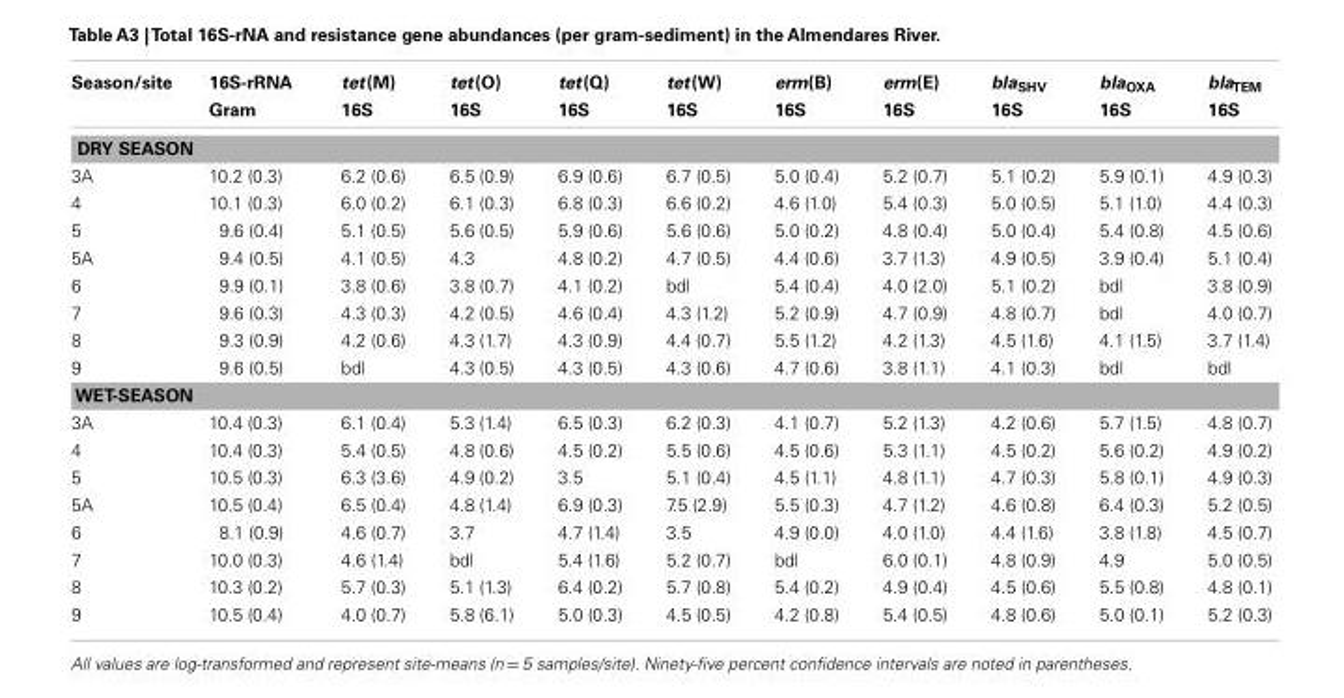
<table><thead><tr><td>Season/site</td><td>16S-rRNA Gram</td><td>tet(M) 16S</td><td>tet(O) 16S</td><td>tet(Q) 16S</td><td>tet(W) 16S</td><td>erm(B) 16S</td><td>erm(E) 16S</td><td>bla<sub>SHV</sub> 16S</td><td>bla<sub>OXA</sub> 16S</td><td>bla<sub>TEM</sub> 16S</td></tr></thead><tbody><tr><td colspan="11">DRY SEASON</td></tr><tr><td>3A</td><td>10.2 (0.3)</td><td>6.2 (0.6)</td><td>6.5 (0.9)</td><td>6.9 (0.6)</td><td>6.7 (0.5)</td><td>5.0 (0.4)</td><td>5.2 (0.7)</td><td>5.1 (0.2)</td><td>5.9 (0.1)</td><td>4.9 (0.3)</td></tr><tr><td>4</td><td>10.1 (0.3)</td><td>6.0 (0.2)</td><td>6.1 (0.3)</td><td>6.8 (0.3)</td><td>6.6 (0.2)</td><td>4.6 (1.0)</td><td>5.4 (0.3)</td><td>5.0 (0.5)</td><td>5.1 (1.0)</td><td>4.4 (0.3)</td></tr><tr><td>5</td><td>9.6 (0.4)</td><td>5.1 (0.5)</td><td>5.6 (0.5)</td><td>5.9 (0.6)</td><td>5.6 (0.6)</td><td>5.0 (0.2)</td><td>4.8 (0.4)</td><td>5.0 (0.4)</td><td>5.4 (0.8)</td><td>4.5 (0.6)</td></tr><tr><td>5A</td><td>9.4 (0.5)</td><td>4.1 (0.5)</td><td>4.3</td><td>4.8 (0.2)</td><td>4.7 (0.5)</td><td>4.4 (0.6)</td><td>3.7 (1.3)</td><td>4.9 (0.5)</td><td>3.9 (0.4)</td><td>5.1 (0.4)</td></tr><tr><td>6</td><td>9.9 (0.1)</td><td>3.8 (0.6)</td><td>3.8 (0.7)</td><td>4.1 (0.2)</td><td>bdl</td><td>5.4 (0.4)</td><td>4.0 (2.0)</td><td>5.1 (0.2)</td><td>bdl</td><td>3.8 (0.9)</td></tr><tr><td>7</td><td>9.6 (0.3)</td><td>4.3 (0.3)</td><td>4.2 (0.5)</td><td>4.6 (0.4)</td><td>4.3 (1.2)</td><td>5.2 (0.9)</td><td>4.7 (0.9)</td><td>4.8 (0.7)</td><td>bdl</td><td>4.0 (0.7)</td></tr><tr><td>8</td><td>9.3 (0.9)</td><td>4.2 (0.6)</td><td>4.3 (1.7)</td><td>4.3 (0.9)</td><td>4.4 (0.7)</td><td>5.5 (1.2)</td><td>4.2 (1.3)</td><td>4.5 (1.6)</td><td>4.1 (1.5)</td><td>3.7 (1.4)</td></tr><tr><td>9</td><td>9.6 (0.5)</td><td>bdl</td><td>4.3 (0.5)</td><td>4.3 (0.5)</td><td>4.3 (0.6)</td><td>4.7 (0.6)</td><td>3.8 (1.1)</td><td>4.1 (0.3)</td><td>bdl</td><td>bdl</td></tr><tr><td colspan="11">WET-SEASON</td></tr><tr><td>3A</td><td>10.4 (0.3)</td><td>6.1 (0.4)</td><td>5.3 (1.4)</td><td>6.5 (0.3)</td><td>6.2 (0.3)</td><td>4.1 (0.7)</td><td>5.2 (1.3)</td><td>4.2 (0.6)</td><td>5.7 (1.5)</td><td>4.8 (0.7)</td></tr><tr><td>4</td><td>10.4 (0.3)</td><td>5.4 (0.5)</td><td>4.8 (0.6)</td><td>4.5 (0.2)</td><td>5.5 (0.6)</td><td>4.5 (0.6)</td><td>5.3 (1.1)</td><td>4.5 (0.2)</td><td>5.6 (0.2)</td><td>4.9 (0.2)</td></tr><tr><td>5</td><td>10.5 (0.3)</td><td>6.3 (3.6)</td><td>4.9 (0.2)</td><td>3.5</td><td>5.1 (0.4)</td><td>4.5 (1.1)</td><td>4.8 (1.1)</td><td>4.7 (0.3)</td><td>5.8 (0.1)</td><td>4.9 (0.3)</td></tr><tr><td>5A</td><td>10.5 (0.4)</td><td>6.5 (0.4)</td><td>4.8 (1.4)</td><td>6.9 (0.3)</td><td>7.5 (2.9)</td><td>5.5 (0.3)</td><td>4.7 (1.2)</td><td>4.6 (0.8)</td><td>6.4 (0.3)</td><td>5.2 (0.5)</td></tr><tr><td>6</td><td>8.1 (0.9)</td><td>4.6 (0.7)</td><td>3.7</td><td>4.7 (1.4)</td><td>3.5</td><td>4.9 (0.0)</td><td>4.0 (1.0)</td><td>4.4 (1.6)</td><td>3.8 (1.8)</td><td>4.5 (0.7)</td></tr><tr><td>7</td><td>10.0 (0.3)</td><td>4.6 (1.4)</td><td>bdl</td><td>5.4 (1.6)</td><td>5.2 (0.7)</td><td>bdl</td><td>6.0 (0.1)</td><td>4.8 (0.9)</td><td>4.9</td><td>5.0 (0.5)</td></tr><tr><td>8</td><td>10.3 (0.2)</td><td>5.7 (0.3)</td><td>5.1 (1.3)</td><td>6.4 (0.2)</td><td>5.7 (0.8)</td><td>5.4 (0.2)</td><td>4.9 (0.4)</td><td>4.5 (0.6)</td><td>5.5 (0.8)</td><td>4.8 (0.1)</td></tr><tr><td>9</td><td>10.5 (0.4)</td><td>4.0 (0.7)</td><td>5.8 (6.1)</td><td>5.0 (0.3)</td><td>4.5 (0.5)</td><td>4.2 (0.8)</td><td>5.4 (0.5)</td><td>4.8 (0.6)</td><td>5.0 (0.1)</td><td>5.2 (0.3)</td></tr></tbody></table>